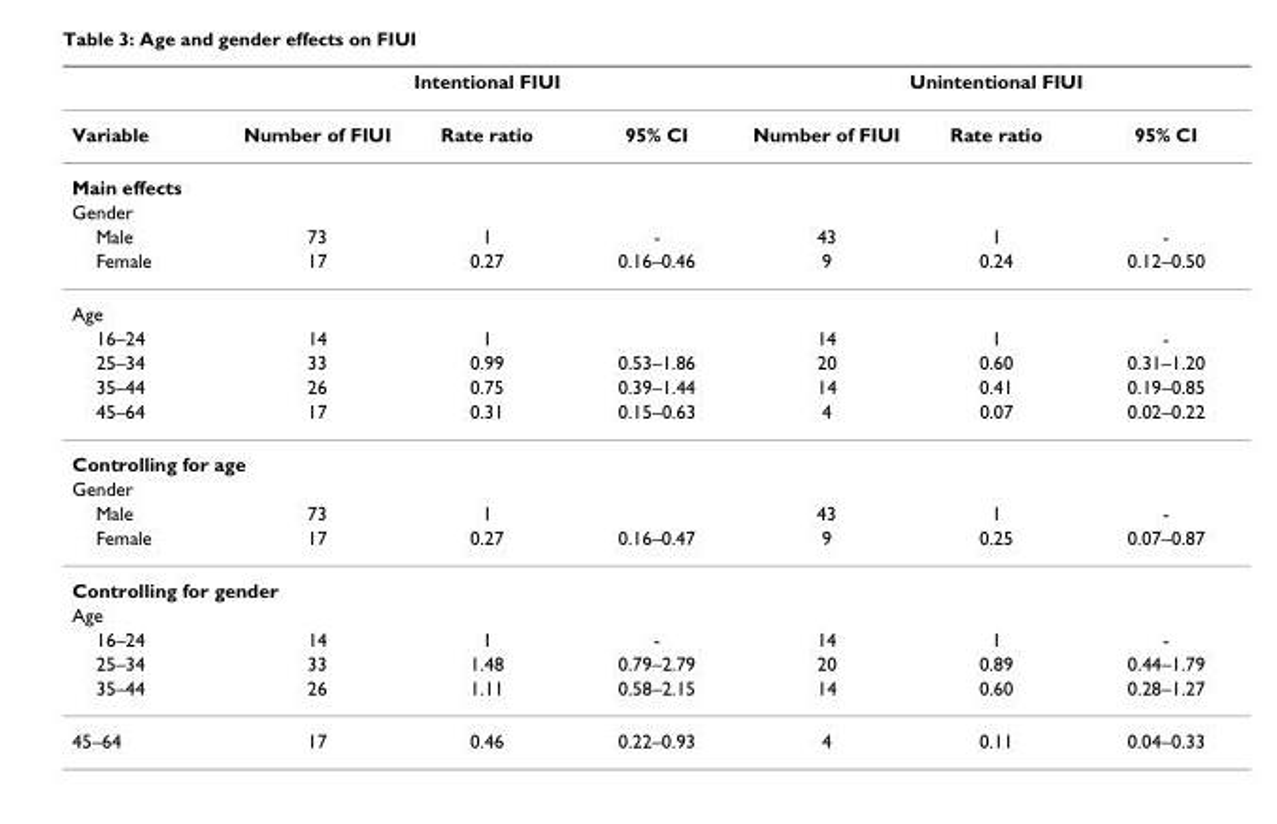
<table><thead><tr><td rowspan="2">Variable</td><td colspan="3">Intentional FIUI</td><td colspan="3">Unintentional FIUI</td></tr><tr><td>Number of FIUI</td><td>Rate ratio</td><td>95% CI</td><td>Number of FIUI</td><td>Rate ratio</td><td>95% CI</td></tr></thead><tbody><tr><td colspan="7">Main effects</td></tr><tr><td colspan="7">Gender</td></tr><tr><td>Male</td><td>73</td><td>1</td><td>-</td><td>43</td><td>1</td><td>-</td></tr><tr><td>Female</td><td>17</td><td>0.27</td><td>0.16–0.46</td><td>9</td><td>0.24</td><td>0.12–0.50</td></tr><tr><td colspan="7">Age</td></tr><tr><td>16–24</td><td>14</td><td>1</td><td></td><td>14</td><td>1</td><td>-</td></tr><tr><td>25–34</td><td>33</td><td>0.99</td><td>0.53–1.86</td><td>20</td><td>0.60</td><td>0.31–1.20</td></tr><tr><td>35–44</td><td>26</td><td>0.75</td><td>0.39–1.44</td><td>14</td><td>0.41</td><td>0.19–0.85</td></tr><tr><td>45–64</td><td>17</td><td>0.31</td><td>0.15–0.63</td><td>4</td><td>0.07</td><td>0.02–0.22</td></tr><tr><td colspan="7">Controlling for age</td></tr><tr><td colspan="7">Gender</td></tr><tr><td>Male</td><td>73</td><td>1</td><td></td><td>43</td><td>1</td><td>-</td></tr><tr><td>Female</td><td>17</td><td>0.27</td><td>0.16–0.47</td><td>9</td><td>0.25</td><td>0.07–0.87</td></tr><tr><td colspan="7">Controlling for gender</td></tr><tr><td colspan="7">Age</td></tr><tr><td>16–24</td><td>14</td><td>1</td><td>-</td><td>14</td><td>1</td><td>-</td></tr><tr><td>25–34</td><td>33</td><td>1.48</td><td>0.79–2.79</td><td>20</td><td>0.89</td><td>0.44–1.79</td></tr><tr><td>35–44</td><td>26</td><td>1.11</td><td>0.58–2.15</td><td>14</td><td>0.60</td><td>0.28–1.27</td></tr><tr><td>45–64</td><td>17</td><td>0.46</td><td>0.22–0.93</td><td>4</td><td>0.11</td><td>0.04–0.33</td></tr></tbody></table>